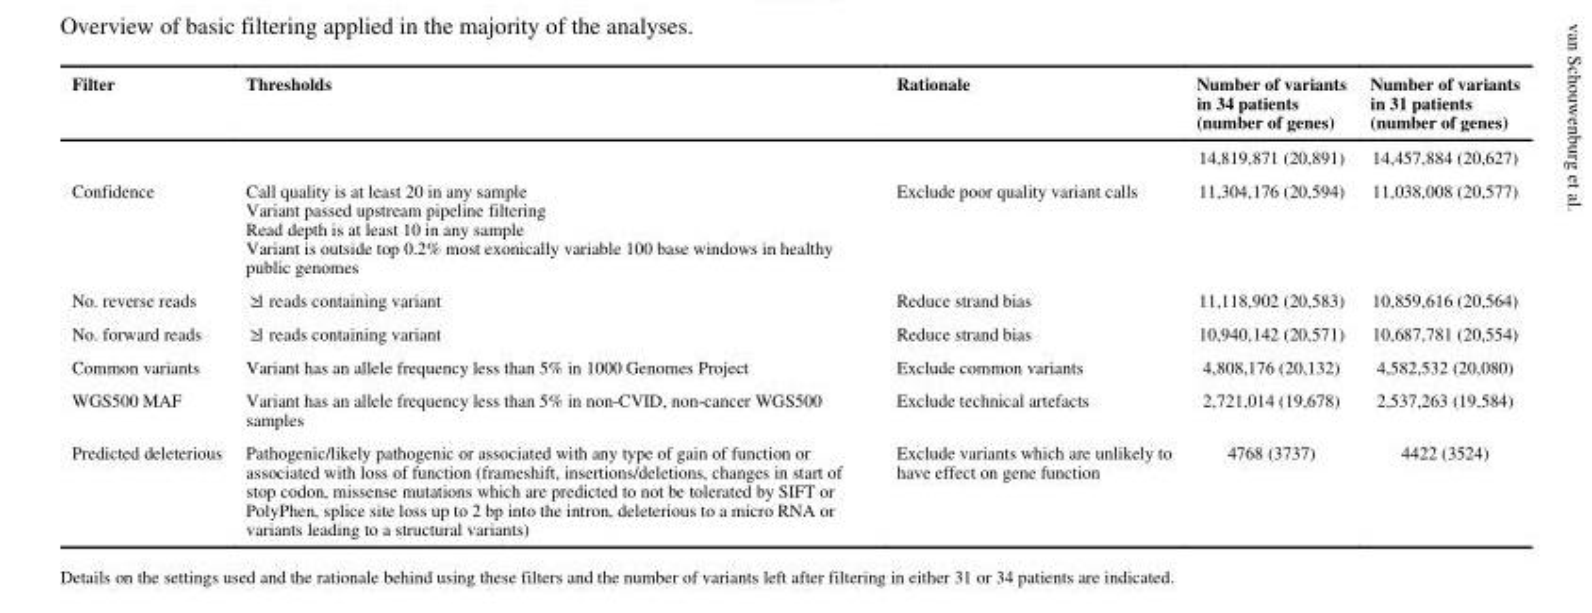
<table><thead><tr><td>Filter</td><td>Thresholds</td><td>Rationale</td><td>Number of variants in 34 patients (number of genes)</td><td>Number of variants in 31 patients (number of genes)</td></tr></thead><tbody><tr><td></td><td></td><td></td><td>14,819,871 (20,891)</td><td>14,457,884 (20,627)</td></tr><tr><td>Confidence</td><td>Call quality is at least 20 in any sample Variant passed upstream pipeline filtering Read depth is at least 10 in any sample Variant is outside top 0.2% most exonically variable 100 base windows in healthy public genomes</td><td>Exclude poor quality variant calls</td><td>11,304,176 (20,594)</td><td>11,038,008 (20,577)</td></tr><tr><td>No. reverse reads</td><td>≥1 reads containing variant</td><td>Reduce strand bias</td><td>11,118,902 (20,583)</td><td>10,859,616 (20,564)</td></tr><tr><td>No. forward reads</td><td>≥1 reads containing variant</td><td>Reduce strand bias</td><td>10,940,142 (20,571)</td><td>10,687,781 (20,554)</td></tr><tr><td>Common variants</td><td>Variant has an allele frequency less than 5% in 1000 Genomes Project</td><td>Exclude common variants</td><td>4,808,176 (20,132)</td><td>4,582,532 (20,080)</td></tr><tr><td>WGS500 MAF</td><td>Variant has an allele frequency less than 5% in non-CVID, non-cancer WGS500 samples</td><td>Exclude technical artefacts</td><td>2,721,014 (19,678)</td><td>2,537,263 (19,584)</td></tr><tr><td>Predicted deleterious</td><td>Pathogenic/likely pathogenic or associated with any type of gain of function or associated with loss of function (frameshift, insertions/deletions, changes in start of stop codon, missense mutations which are predicted to not be tolerated by SIFT or PolyPhen, splice site loss up to 2 bp into the intron, deleterious to a micro RNA or variants leading to a structural variants)</td><td>Exclude variants which are unlikely to have effect on gene function</td><td>4768 (3737)</td><td>4422 (3524)</td></tr></tbody></table>